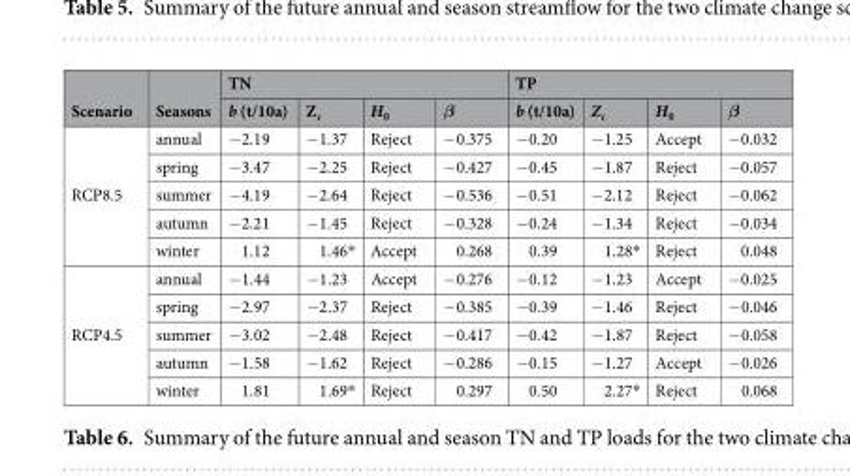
<table><thead><tr><td rowspan="2">Scenario</td><td rowspan="2">Seasons</td><td colspan="4">TN</td><td colspan="4">TP</td></tr><tr><td>b (t/10a)</td><td>Z<sub>c</sub></td><td>H<sub>0</sub></td><td>β</td><td>b (t/10a)</td><td>Z<sub>c</sub></td><td>H<sub>0</sub></td><td>β</td></tr></thead><tbody><tr><td rowspan="5">RCP8.5</td><td>annual</td><td>−2.19</td><td>−1.37</td><td>Reject</td><td>−0.375</td><td>−0.20</td><td>−1.25</td><td>Accept</td><td>−0.032</td></tr><tr><td>spring</td><td>−3.47</td><td>−2.25</td><td>Reject</td><td>−0.427</td><td>−0.45</td><td>−1.87</td><td>Reject</td><td>−0.057</td></tr><tr><td>summer</td><td>−4.19</td><td>−2.64</td><td>Reject</td><td>−0.536</td><td>−0.51</td><td>−2.12</td><td>Reject</td><td>−0.062</td></tr><tr><td>autumn</td><td>−2.21</td><td>−1.45</td><td>Reject</td><td>−0.328</td><td>−0.24</td><td>−1.34</td><td>Reject</td><td>−0.034</td></tr><tr><td>winter</td><td>1.12</td><td>1.46*</td><td>Accept</td><td>0.268</td><td>0.39</td><td>1.28*</td><td>Reject</td><td>0.048</td></tr><tr><td rowspan="5">RCP4.5</td><td>annual</td><td>−1.44</td><td>−1.23</td><td>Accept</td><td>−0.276</td><td>−0.12</td><td>−1.23</td><td>Accept</td><td>−0.025</td></tr><tr><td>spring</td><td>−2.97</td><td>−2.37</td><td>Reject</td><td>−0.385</td><td>−0.39</td><td>−1.46</td><td>Reject</td><td>−0.046</td></tr><tr><td>summer</td><td>−3.02</td><td>−2.48</td><td>Reject</td><td>−0.417</td><td>−0.42</td><td>−1.87</td><td>Reject</td><td>−0.058</td></tr><tr><td>autumn</td><td>−1.58</td><td>−1.62</td><td>Reject</td><td>−0.286</td><td>−0.15</td><td>−1.27</td><td>Accept</td><td>−0.026</td></tr><tr><td>winter</td><td>1.81</td><td>1.69*</td><td>Reject</td><td>0.297</td><td>0.50</td><td>2.27*</td><td>Reject</td><td>0.068</td></tr></tbody></table>